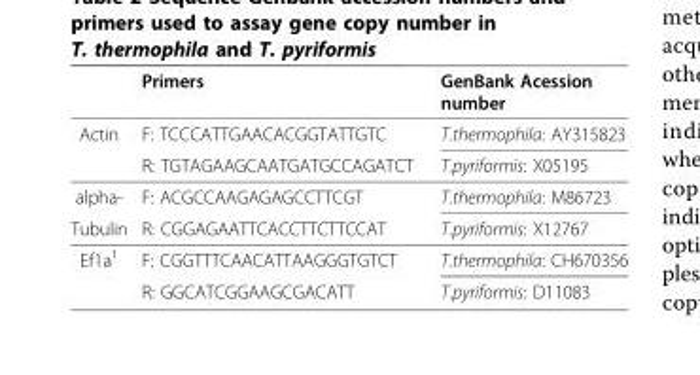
<table><thead><tr><td></td><td>Primers</td><td>GenBank Acession number</td></tr></thead><tbody><tr><td rowspan="2">Actin</td><td>F: TCCCATTGAACACGGTATTGTC</td><td>T.thermophila: AY315823</td></tr><tr><td>R: TGTAGAAGCAATGATGCCAGATCT</td><td>T.pyriformis: X05195</td></tr><tr><td>alpha-</td><td>F: ACGCCAAGAGAGCCTTCGT</td><td>T.thermophila: M86723</td></tr><tr><td>Tubulin</td><td>R: CGGAGAATTCACCTTCTTCCAT</td><td>T.pyriformis: X12767</td></tr><tr><td rowspan="2">Ef1a<sup>1</sup></td><td>F: CGGTTTCAACATTAAGGGTGTCT</td><td>T.thermophila: CH670356</td></tr><tr><td>R: GGCATCGGAAGCGACATT</td><td>T.pyriformis: D11083</td></tr></tbody></table>